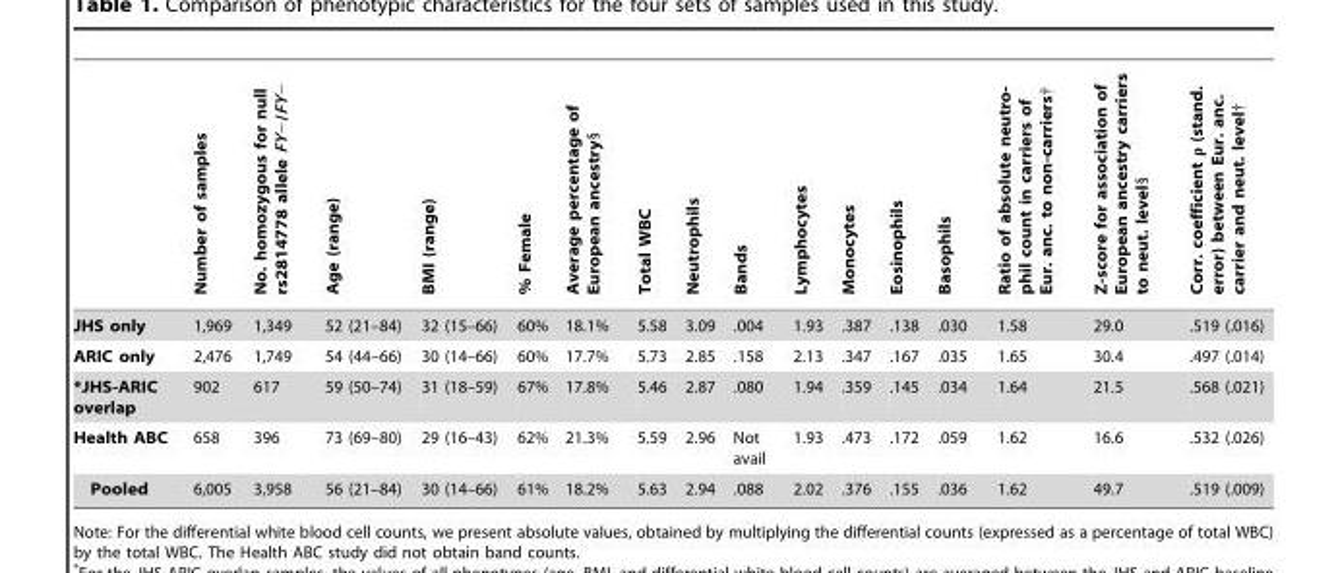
<table><thead><tr><td></td><td>Number of samples</td><td>No. homozygous for null rs2814778 allele FY−/FY−</td><td>Age (range)</td><td>BMI (range)</td><td>% Female</td><td>Average percentage of European ancestry§</td><td>Total WBC</td><td>Neutrophils</td><td>Bands</td><td>Lymphocytes</td><td>Monocytes</td><td>Eosinophils</td><td>Basophils</td><td>Ratio of absolute neutro- phil count in carriers of Eur. anc. to non-carriers{</td><td>Z-score for association of European ancestry carriers to neut. level§</td><td>Corr. coefficient ρ (stand. error) between Eur. anc. carrier and neut. level†</td></tr></thead><tbody><tr><td>JHS only</td><td>1,969</td><td>1,349</td><td>52 (21–84)</td><td>32 (15–66)</td><td>60%</td><td>18.1%</td><td>5.58</td><td>3.09</td><td>.004</td><td>1.93</td><td>.387</td><td>.138</td><td>.030</td><td>1.58</td><td>29.0</td><td>.519 (.016)</td></tr><tr><td>ARIC only</td><td>2,476</td><td>1,749</td><td>54 (44–66)</td><td>30 (14–66)</td><td>60%</td><td>17.7%</td><td>5.73</td><td>2.85</td><td>.158</td><td>2.13</td><td>.347</td><td>.167</td><td>.035</td><td>1.65</td><td>30.4</td><td>.497 (.014)</td></tr><tr><td>*JHS-ARIC overlap</td><td>902</td><td>617</td><td>59 (50–74)</td><td>31 (18–59)</td><td>67%</td><td>17.8%</td><td>5.46</td><td>2.87</td><td>.080</td><td>1.94</td><td>.359</td><td>.145</td><td>.034</td><td>1.64</td><td>21.5</td><td>.568 (.021)</td></tr><tr><td>Health ABC</td><td>658</td><td>396</td><td>73 (69–80)</td><td>29 (16–43)</td><td>62%</td><td>21.3%</td><td>5.59</td><td>2.96</td><td>Not avail</td><td>1.93</td><td>.473</td><td>.172</td><td>.059</td><td>1.62</td><td>16.6</td><td>.532 (.026)</td></tr><tr><td>Pooled</td><td>6,005</td><td>3,958</td><td>56 (21–84)</td><td>30 (14–66)</td><td>61%</td><td>18.2%</td><td>5.63</td><td>2.94</td><td>.088</td><td>2.02</td><td>.376</td><td>.155</td><td>.036</td><td>1.62</td><td>49.7</td><td>.519 (.009)</td></tr></tbody></table>